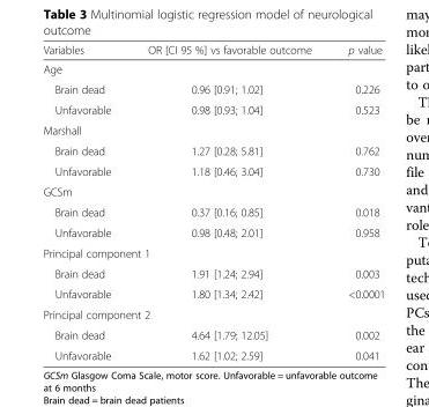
<table><thead><tr><td>Variables</td><td>OR [CI 95 %] vs favorable outcome</td><td>p value</td></tr></thead><tbody><tr><td colspan="3">Age</td></tr><tr><td>Brain dead</td><td>0.96 [0.91; 1.02]</td><td>0.226</td></tr><tr><td>Unfavorable</td><td>0.98 [0.93; 1.04]</td><td>0.523</td></tr><tr><td colspan="3">Marshall</td></tr><tr><td>Brain dead</td><td>1.27 [0.28; 5.81]</td><td>0.762</td></tr><tr><td>Unfavorable</td><td>1.18 [0.46; 3.04]</td><td>0.730</td></tr><tr><td colspan="3">GCSm</td></tr><tr><td>Brain dead</td><td>0.37 [0.16; 0.85]</td><td>0.018</td></tr><tr><td>Unfavorable</td><td>0.98 [0.48; 2.01]</td><td>0.958</td></tr><tr><td colspan="3">Principal component 1</td></tr><tr><td>Brain dead</td><td>1.91 [1.24; 2.94]</td><td>0.003</td></tr><tr><td>Unfavorable</td><td>1.80 [1.34; 2.42]</td><td>&lt;0.0001</td></tr><tr><td colspan="3">Principal component 2</td></tr><tr><td>Brain dead</td><td>4.64 [1.79; 12.05]</td><td>0.002</td></tr><tr><td>Unfavorable</td><td>1.62 [1.02; 2.59]</td><td>0.041</td></tr></tbody></table>